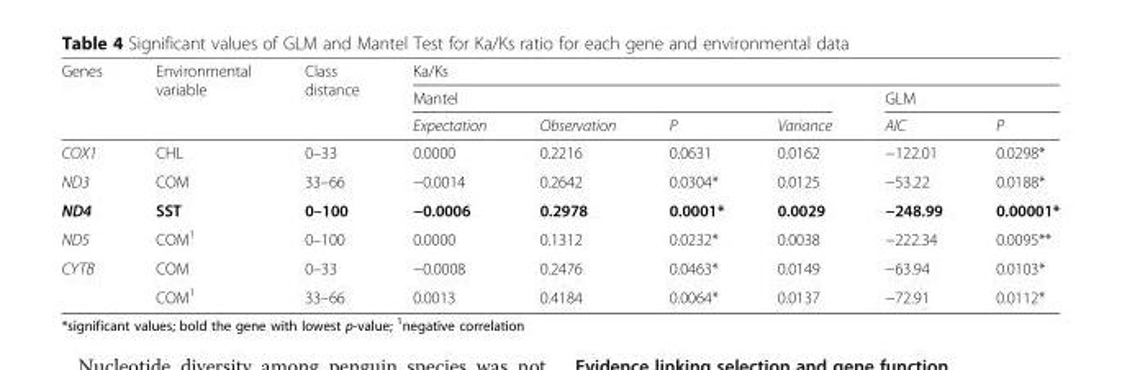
<table><thead><tr><td rowspan="3">Genes</td><td rowspan="3">Environmental variable</td><td rowspan="3">Class distance</td><td colspan="6">Ka/Ks</td></tr><tr><td colspan="4">Mantel</td><td colspan="2">GLM</td></tr><tr><td>Expectation</td><td>Observation</td><td>P</td><td>Variance</td><td>AIC</td><td>P</td></tr></thead><tbody><tr><td>COX1</td><td>CHL</td><td>0–33</td><td>0.0000</td><td>0.2216</td><td>0.0631</td><td>0.0162</td><td>−122.01</td><td>0.0298*</td></tr><tr><td>ND3</td><td>COM</td><td>33–66</td><td>−0.0014</td><td>0.2642</td><td>0.0304*</td><td>0.0125</td><td>−53.22</td><td>0.0188*</td></tr><tr><td>ND4</td><td>SST</td><td>0–100</td><td>−0.0006</td><td>0.2978</td><td>0.0001*</td><td>0.0029</td><td>−248.99</td><td>0.00001*</td></tr><tr><td>ND5</td><td>COM<sup>1</sup></td><td>0–100</td><td>0.0000</td><td>0.1312</td><td>0.0232*</td><td>0.0038</td><td>−222.34</td><td>0.0095**</td></tr><tr><td rowspan="2">CYTB</td><td>COM</td><td>0–33</td><td>−0.0008</td><td>0.2476</td><td>0.0463*</td><td>0.0149</td><td>−63.94</td><td>0.0103*</td></tr><tr><td>COM<sup>1</sup></td><td>33–66</td><td>0.0013</td><td>0.4184</td><td>0.0064*</td><td>0.0137</td><td>−72.91</td><td>0.0112*</td></tr></tbody></table>